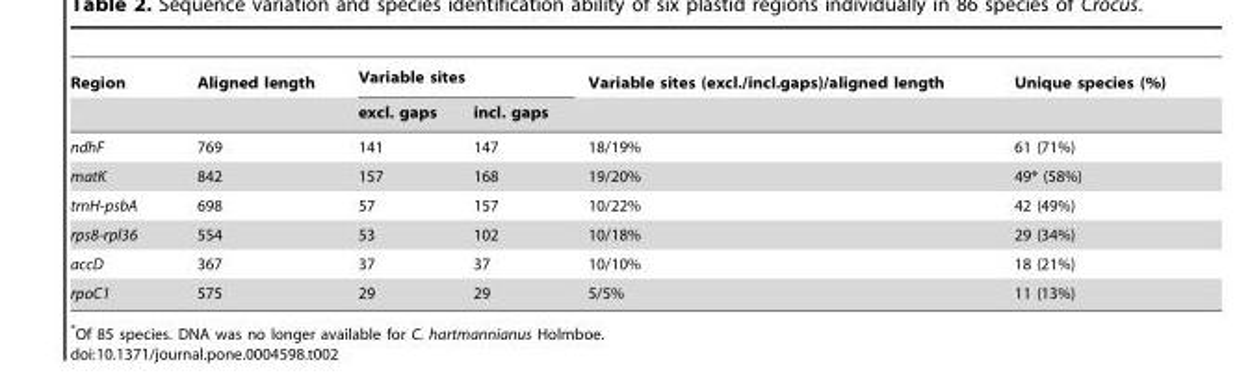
<table><thead><tr><td rowspan="2">Region</td><td rowspan="2">Aligned length</td><td colspan="2">Variable sites</td><td rowspan="2">Variable sites (excl./incl.gaps)/aligned length</td><td rowspan="2">Unique species (%)</td></tr><tr><td>excl. gaps</td><td>incl. gaps</td></tr></thead><tbody><tr><td>ndhF</td><td>769</td><td>141</td><td>147</td><td>18/19%</td><td>61 (71%)</td></tr><tr><td>matK</td><td>842</td><td>157</td><td>168</td><td>19/20%</td><td>49* (58%)</td></tr><tr><td>trnH-psbA</td><td>698</td><td>57</td><td>157</td><td>10/22%</td><td>42 (49%)</td></tr><tr><td>rps8-rpl36</td><td>554</td><td>53</td><td>102</td><td>10/18%</td><td>29 (34%)</td></tr><tr><td>accD</td><td>367</td><td>37</td><td>37</td><td>10/10%</td><td>18 (21%)</td></tr><tr><td>rpoC1</td><td>575</td><td>29</td><td>29</td><td>5/5%</td><td>11 (13%)</td></tr></tbody></table>